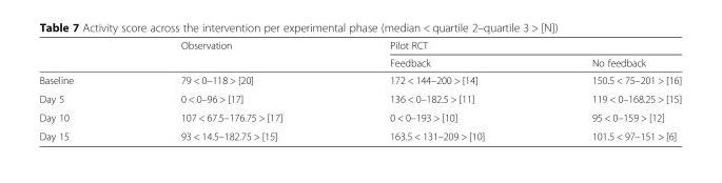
<table><thead><tr><td rowspan="2"></td><td rowspan="2">Observation</td><td colspan="2">Pilot RCT</td></tr><tr><td>Feedback</td><td>No feedback</td></tr></thead><tbody><tr><td>Baseline</td><td>79 &lt; 0–118 &gt; [20]</td><td>172 &lt; 144–200 &gt; [14]</td><td>150.5 &lt; 75–201 &gt; [16]</td></tr><tr><td>Day 5</td><td>0 &lt; 0–96 &gt; [17]</td><td>136 &lt; 0–182.5 &gt; [11]</td><td>119 &lt; 0–168.25 &gt; [15]</td></tr><tr><td>Day 10</td><td>107 &lt; 67.5–176.75 &gt; [17]</td><td>0 &lt; 0–193 &gt; [10]</td><td>95 &lt; 0–159 &gt; [12]</td></tr><tr><td>Day 15</td><td>93 &lt; 14.5–182.75 &gt; [15]</td><td>163.5 &lt; 131–209 &gt; [10]</td><td>101.5 &lt; 97–151 &gt; [6]</td></tr></tbody></table>